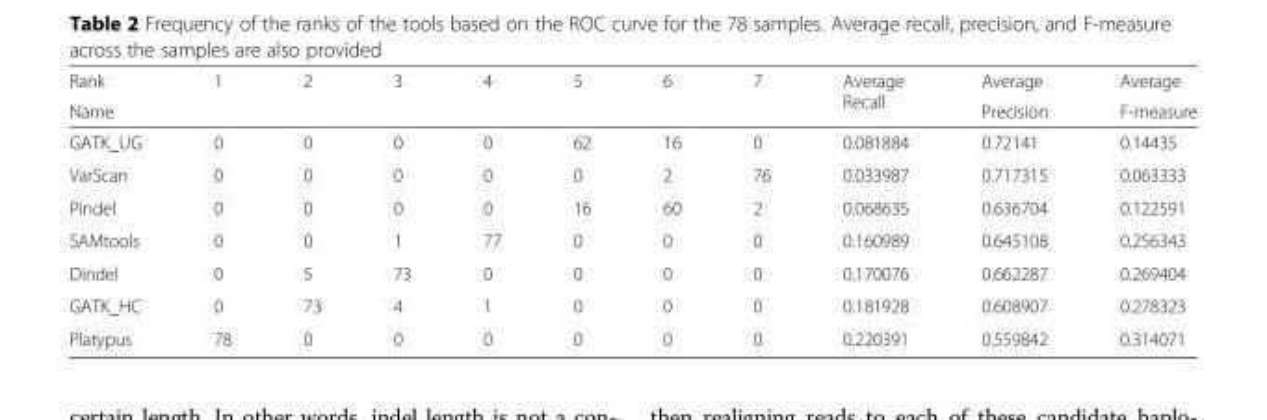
<table><thead><tr><td rowspan="2">Rank Name</td><td rowspan="2">1</td><td rowspan="2">2</td><td rowspan="2">3</td><td rowspan="2">4</td><td rowspan="2">5</td><td rowspan="2">6</td><td rowspan="2">7</td><td rowspan="2">Average Recall</td><td rowspan="2">Average Precision</td><td rowspan="2">Average F-measure</td></tr><tr></tr></thead><tbody><tr><td>GATK_UG</td><td>0</td><td>0</td><td>0</td><td>0</td><td>62</td><td>16</td><td>0</td><td>0.081884</td><td>0.72141</td><td>0.14435</td></tr><tr><td>VarScan</td><td>0</td><td>0</td><td>0</td><td>0</td><td>0</td><td>2</td><td>76</td><td>0.033987</td><td>0.717315</td><td>0.063333</td></tr><tr><td>Pindel</td><td>0</td><td>0</td><td>0</td><td>0</td><td>16</td><td>60</td><td>2</td><td>0.068635</td><td>0.636704</td><td>0.122591</td></tr><tr><td>SAMtools</td><td>0</td><td>0</td><td>1</td><td>77</td><td>0</td><td>0</td><td>0</td><td>0.160989</td><td>0.645108</td><td>0.256343</td></tr><tr><td>Dindel</td><td>0</td><td>5</td><td>73</td><td>0</td><td>0</td><td>0</td><td>0</td><td>0.170076</td><td>0.662287</td><td>0.269404</td></tr><tr><td>GATK_HC</td><td>0</td><td>73</td><td>4</td><td>1</td><td>0</td><td>0</td><td>0</td><td>0.181928</td><td>0.608907</td><td>0.278323</td></tr><tr><td>Platypus</td><td>78</td><td>0</td><td>0</td><td>0</td><td>0</td><td>0</td><td>0</td><td>0.220391</td><td>0.559842</td><td>0.314071</td></tr></tbody></table>